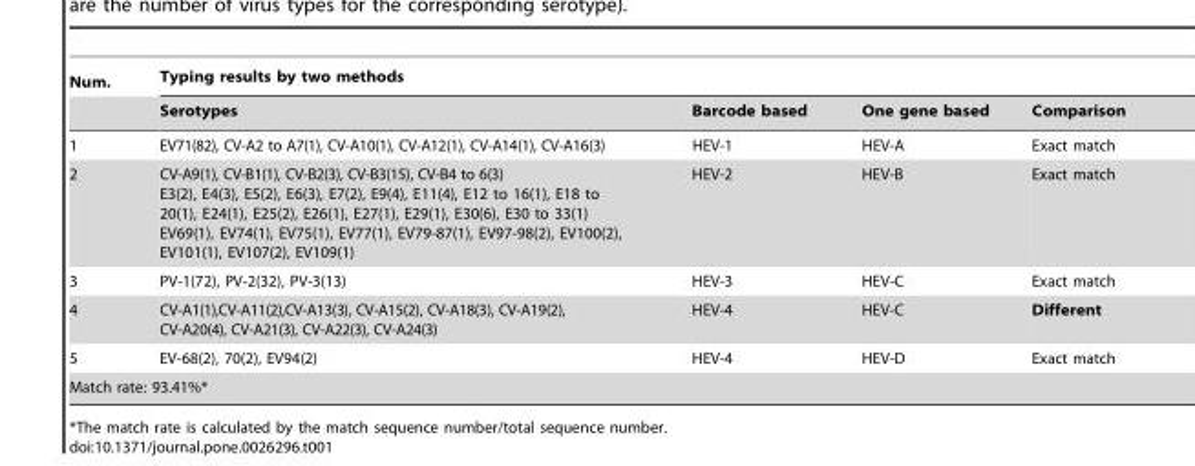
<table><thead><tr><td rowspan="2">Num.</td><td colspan="4">Typing results by two methods</td></tr><tr><td>Serotypes</td><td>Barcode based</td><td>One gene based</td><td>Comparison</td></tr></thead><tbody><tr><td>1</td><td>EV71(82), CV-A2 to A7(1), CV-A10(1), CV-A12(1), CV-A14(1), CV-A16(3)</td><td>HEV-1</td><td>HEV-A</td><td>Exact match</td></tr><tr><td>2</td><td>CV-A9(1), CV-B1(1), CV-B2(3), CV-B3(15), CV-B4 to 6(3) E3(2), E4(3), E5(2), E6(3), E7(2), E9(4), E11(4), E12 to 16(1), E18 to 20(1), E24(1), E25(2), E26(1), E27(1), E29(1), E30(6), E30 to 33(1) EV69(1), EV74(1), EV75(1), EV77(1), EV79-87(1), EV97-98(2), EV100(2), EV101(1), EV107(2), EV109(1)</td><td>HEV-2</td><td>HEV-B</td><td>Exact match</td></tr><tr><td>3</td><td>PV-1(72), PV-2(32), PV-3(13)</td><td>HEV-3</td><td>HEV-C</td><td>Exact match</td></tr><tr><td>4</td><td>CV-A1(1),CV-A11(2),CV-A13(3), CV-A15(2), CV-A18(3), CV-A19(2), CV-A20(4), CV-A21(3), CV-A22(3), CV-A24(3)</td><td>HEV-4</td><td>HEV-C</td><td>Different</td></tr><tr><td>5</td><td>EV-68(2), 70(2), EV94(2)</td><td>HEV-4</td><td>HEV-D</td><td>Exact match</td></tr><tr><td colspan="5">Match rate: 93.41%*</td></tr></tbody></table>